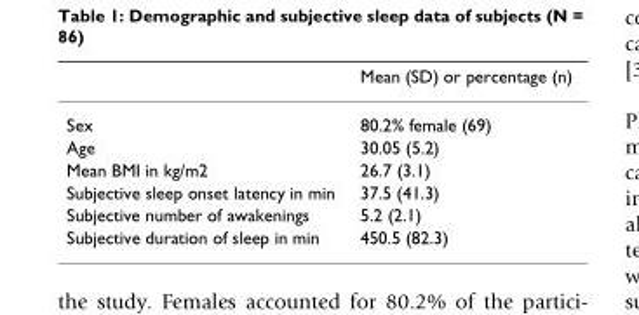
<table><thead><tr><td></td><td>Mean (SD) or percentage (n)</td></tr></thead><tbody><tr><td>Sex</td><td>80.2% female (69)</td></tr><tr><td>Age</td><td>30.05 (5.2)</td></tr><tr><td>Mean BMI in kg/m2</td><td>26.7 (3.1)</td></tr><tr><td>Subjective sleep onset latency in min</td><td>37.5 (41.3)</td></tr><tr><td>Subjective number of awakenings</td><td>5.2 (2.1)</td></tr><tr><td>Subjective duration of sleep in min</td><td>450.5 (82.3)</td></tr></tbody></table>